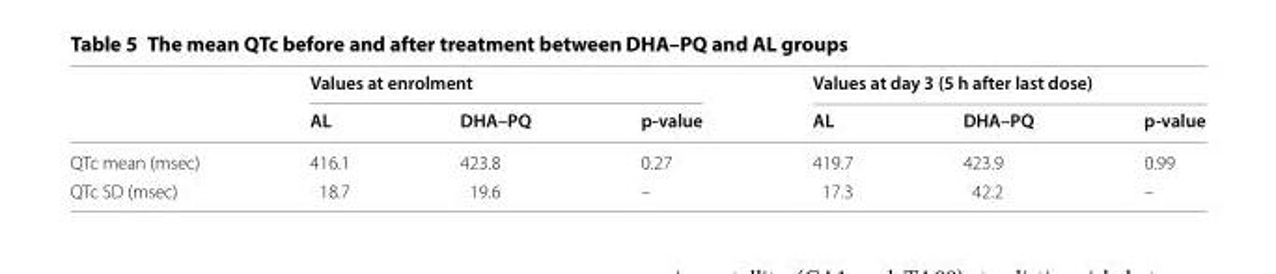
<table><thead><tr><td rowspan="2"></td><td colspan="3">Values at enrolment</td><td colspan="3">Values at day 3 (5 h after last dose)</td></tr><tr><td>AL</td><td>DHA–PQ</td><td>p‑value</td><td>AL</td><td>DHA–PQ</td><td>p‑value</td></tr></thead><tbody><tr><td>QTc mean (msec)</td><td>416.1</td><td>423.8</td><td>0.27</td><td>419.7</td><td>423.9</td><td>0.99</td></tr><tr><td>QTc SD (msec)</td><td>18.7</td><td>19.6</td><td>–</td><td>17.3</td><td>42.2</td><td>–</td></tr></tbody></table>